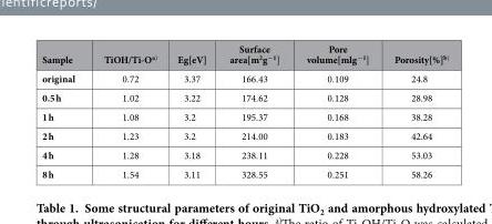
<table><thead><tr><td>Sample</td><td>TiOH/Ti-Oa)</td><td>Eg[eV]</td><td>Surface area[m<sup>2</sup>g<sup>−1</sup>]</td><td>Pore volume[mlg<sup>−1</sup>]</td><td>Porosity[%]<sup>b)</sup></td></tr></thead><tbody><tr><td>original</td><td>0.72</td><td>3.37</td><td>166.43</td><td>0.109</td><td>24.8</td></tr><tr><td>0.5 h</td><td>1.02</td><td>3.22</td><td>174.62</td><td>0.128</td><td>28.98</td></tr><tr><td>1 h</td><td>1.08</td><td>3.2</td><td>195.37</td><td>0.168</td><td>38.28</td></tr><tr><td>2 h</td><td>1.23</td><td>3.2</td><td>214.00</td><td>0.183</td><td>42.64</td></tr><tr><td>4 h</td><td>1.28</td><td>3.18</td><td>238.11</td><td>0.228</td><td>53.03</td></tr><tr><td>8 h</td><td>1.54</td><td>3.11</td><td>328.55</td><td>0.251</td><td>58.26</td></tr></tbody></table>